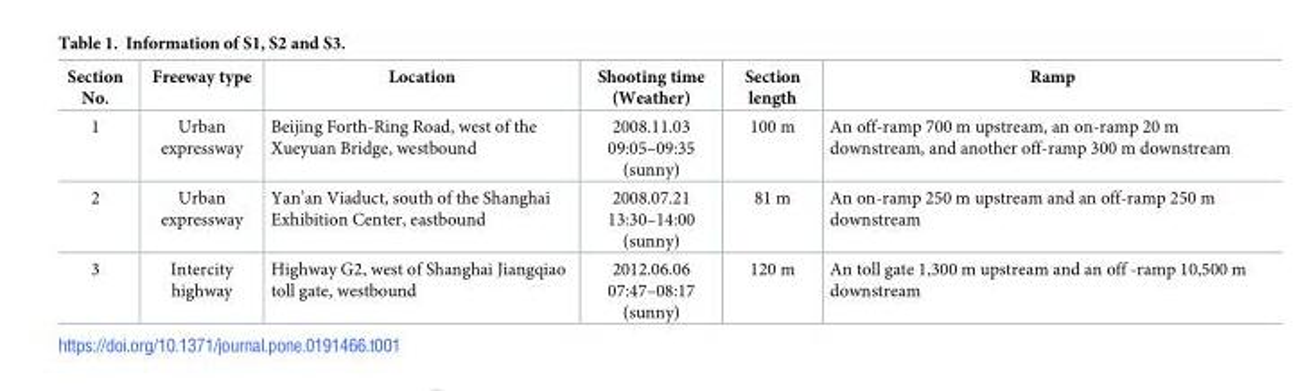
<table><thead><tr><td>Section No.</td><td>Freeway type</td><td>Location</td><td>Shooting time (Weather)</td><td>Section length</td><td>Ramp</td></tr></thead><tbody><tr><td>1</td><td>Urban expressway</td><td>Beijing Forth-Ring Road, west of the Xueyuan Bridge, westbound</td><td>2008.11.03 09:05–09:35 (sunny)</td><td>100 m</td><td>An off-ramp 700 m upstream, an on-ramp 20 m downstream, and another off-ramp 300 m downstream</td></tr><tr><td>2</td><td>Urban expressway</td><td>Yan’an Viaduct, south of the Shanghai Exhibition Center, eastbound</td><td>2008.07.21 13:30–14:00 (sunny)</td><td>81 m</td><td>An on-ramp 250 m upstream and an off-ramp 250 m downstream</td></tr><tr><td>3</td><td>Intercity highway</td><td>Highway G2, west of Shanghai Jiangqiao toll gate, westbound</td><td>2012.06.06 07:47–08:17 (sunny)</td><td>120 m</td><td>An toll gate 1,300 m upstream and an off -ramp 10,500 m downstream</td></tr></tbody></table>